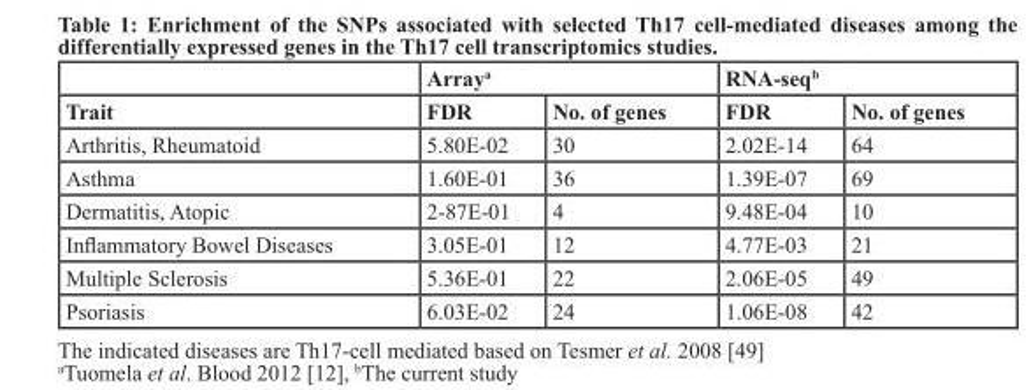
<table><thead><tr><td rowspan="2">Trait</td><td colspan="2">Array<sup>a</sup></td><td colspan="2">RNA-seq<sup>b</sup></td></tr><tr><td>FDR</td><td>No. of genes</td><td>FDR</td><td>No. of genes</td></tr></thead><tbody><tr><td>Arthritis, Rheumatoid</td><td>5.80E-02</td><td>30</td><td>2.02E-14</td><td>64</td></tr><tr><td>Asthma</td><td>1.60E-01</td><td>36</td><td>1.39E-07</td><td>69</td></tr><tr><td>Dermatitis, Atopic</td><td>2-87E-01</td><td>4</td><td>9.48E-04</td><td>10</td></tr><tr><td>Inflammatory Bowel Diseases</td><td>3.05E-01</td><td>12</td><td>4.77E-03</td><td>21</td></tr><tr><td>Multiple Sclerosis</td><td>5.36E-01</td><td>22</td><td>2.06E-05</td><td>49</td></tr><tr><td>Psoriasis</td><td>6.03E-02</td><td>24</td><td>1.06E-08</td><td>42</td></tr></tbody></table>